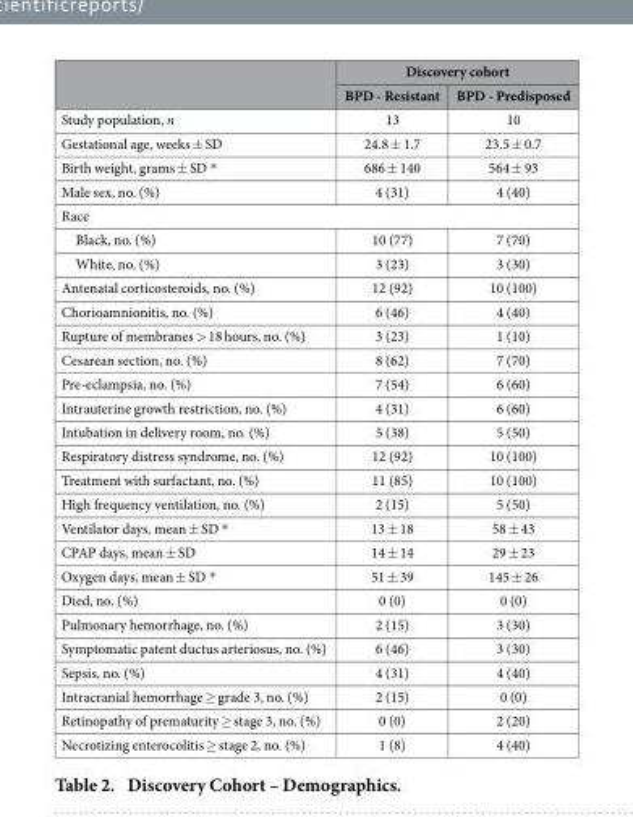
<table><thead><tr><td rowspan="2"></td><td colspan="2">Discovery cohort</td></tr><tr><td>BPD - Resistant</td><td>BPD - Predisposed</td></tr></thead><tbody><tr><td>Study population, n</td><td>13</td><td>10</td></tr><tr><td>Gestational age, weeks ± SD</td><td>24.8 ± 1.7</td><td>23.5 ± 0.7</td></tr><tr><td>Birth weight, grams ± SD *</td><td>686 ± 140</td><td>564 ± 93</td></tr><tr><td>Male sex, no. (%)</td><td>4 (31)</td><td>4 (40)</td></tr><tr><td colspan="3">Race</td></tr><tr><td>Black, no. (%)</td><td>10 (77)</td><td>7 (70)</td></tr><tr><td>White, no. (%)</td><td>3 (23)</td><td>3 (30)</td></tr><tr><td>Antenatal corticosteroids, no. (%)</td><td>12 (92)</td><td>10 (100)</td></tr><tr><td>Chorioamnionitis, no. (%)</td><td>6 (46)</td><td>4 (40)</td></tr><tr><td>Rupture of membranes &gt; 18 hours, no. (%)</td><td>3 (23)</td><td>1 (10)</td></tr><tr><td>Cesarean section, no. (%)</td><td>8 (62)</td><td>7 (70)</td></tr><tr><td>Pre-eclampsia, no. (%)</td><td>7 (54)</td><td>6 (60)</td></tr><tr><td>Intrauterine growth restriction, no. (%)</td><td>4 (31)</td><td>6 (60)</td></tr><tr><td>Intubation in delivery room, no. (%)</td><td>5 (38)</td><td>5 (50)</td></tr><tr><td>Respiratory distress syndrome, no. (%)</td><td>12 (92)</td><td>10 (100)</td></tr><tr><td>Treatment with surfactant, no. (%)</td><td>11 (85)</td><td>10 (100)</td></tr><tr><td>High frequency ventilation, no. (%)</td><td>2 (15)</td><td>5 (50)</td></tr><tr><td>Ventilator days, mean ± SD *</td><td>13 ± 18</td><td>58 ± 43</td></tr><tr><td>CPAP days, mean ± SD</td><td>14 ± 14</td><td>29 ± 23</td></tr><tr><td>Oxygen days, mean ± SD *</td><td>51 ± 39</td><td>145 ± 26</td></tr><tr><td>Died, no. (%)</td><td>0 (0)</td><td>0 (0)</td></tr><tr><td>Pulmonary hemorrhage, no. (%)</td><td>2 (15)</td><td>3 (30)</td></tr><tr><td>Symptomatic patent ductus arteriosus, no. (%)</td><td>6 (46)</td><td>3 (30)</td></tr><tr><td>Sepsis, no. (%)</td><td>4 (31)</td><td>4 (40)</td></tr><tr><td>Intracranial hemorrhage ≥ grade 3, no. (%)</td><td>2 (15)</td><td>0 (0)</td></tr><tr><td>Retinopathy of prematurity ≥ stage 3, no. (%)</td><td>0 (0)</td><td>2 (20)</td></tr><tr><td>Necrotizing enterocolitis ≥ stage 2, no. (%)</td><td>1 (8)</td><td>4 (40)</td></tr></tbody></table>